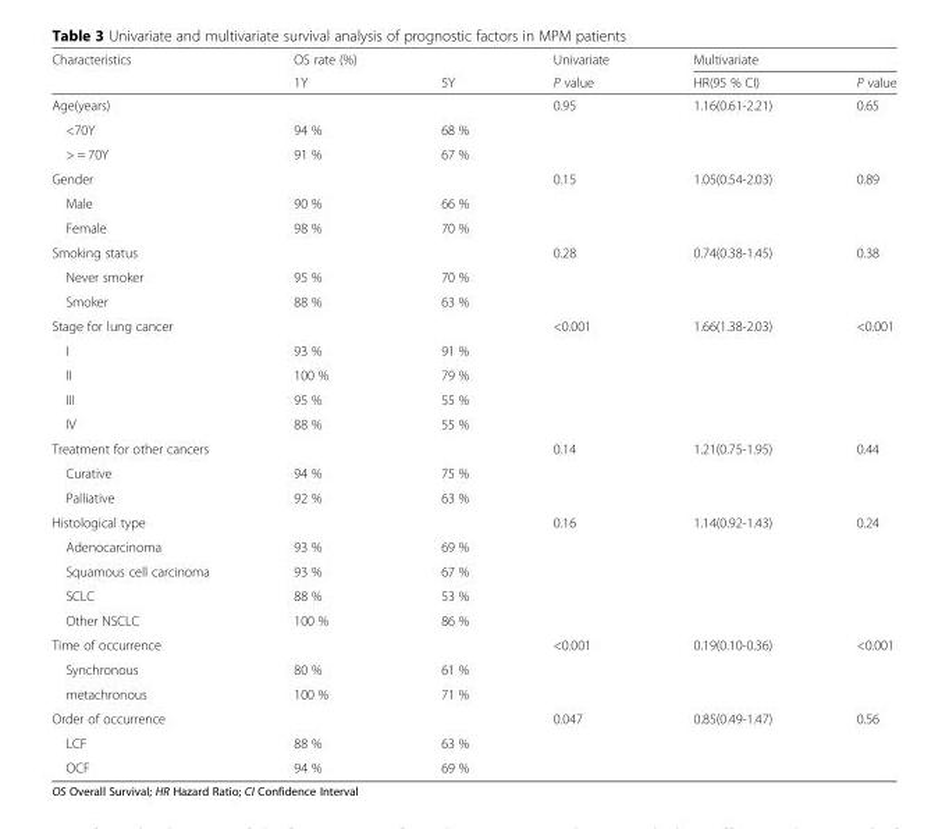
<table><thead><tr><td rowspan="2">Characteristics</td><td rowspan="2">OS rate (%) 1Y</td><td rowspan="2">5Y</td><td rowspan="2">Univariate P value</td><td colspan="2">Multivariate</td></tr><tr><td>HR(95 % CI)</td><td>P value</td></tr></thead><tbody><tr><td>Age(years)</td><td></td><td></td><td>0.95</td><td>1.16(0.61-2.21)</td><td>0.65</td></tr><tr><td>&lt;70Y</td><td>94 %</td><td>68 %</td><td></td><td></td><td></td></tr><tr><td>&gt; = 70Y</td><td>91 %</td><td>67 %</td><td></td><td></td><td></td></tr><tr><td>Gender</td><td></td><td></td><td>0.15</td><td>1.05(0.54-2.03)</td><td>0.89</td></tr><tr><td>Male</td><td>90 %</td><td>66 %</td><td></td><td></td><td></td></tr><tr><td>Female</td><td>98 %</td><td>70 %</td><td></td><td></td><td></td></tr><tr><td>Smoking status</td><td></td><td></td><td>0.28</td><td>0.74(0.38-1.45)</td><td>0.38</td></tr><tr><td>Never smoker</td><td>95 %</td><td>70 %</td><td></td><td></td><td></td></tr><tr><td>Smoker</td><td>88 %</td><td>63 %</td><td></td><td></td><td></td></tr><tr><td>Stage for lung cancer</td><td></td><td></td><td>&lt;0.001</td><td>1.66(1.38-2.03)</td><td>&lt;0.001</td></tr><tr><td>I</td><td>93 %</td><td>91 %</td><td></td><td></td><td></td></tr><tr><td>II</td><td>100 %</td><td>79 %</td><td></td><td></td><td></td></tr><tr><td>III</td><td>95 %</td><td>55 %</td><td></td><td></td><td></td></tr><tr><td>IV</td><td>88 %</td><td>55 %</td><td></td><td></td><td></td></tr><tr><td>Treatment for other cancers</td><td></td><td></td><td>0.14</td><td>1.21(0.75-1.95)</td><td>0.44</td></tr><tr><td>Curative</td><td>94 %</td><td>75 %</td><td></td><td></td><td></td></tr><tr><td>Palliative</td><td>92 %</td><td>63 %</td><td></td><td></td><td></td></tr><tr><td>Histological type</td><td></td><td></td><td>0.16</td><td>1.14(0.92-1.43)</td><td>0.24</td></tr><tr><td>Adenocarcinoma</td><td>93 %</td><td>69 %</td><td></td><td></td><td></td></tr><tr><td>Squamous cell carcinoma</td><td>93 %</td><td>67 %</td><td></td><td></td><td></td></tr><tr><td>SCLC</td><td>88 %</td><td>53 %</td><td></td><td></td><td></td></tr><tr><td>Other NSCLC</td><td>100 %</td><td>86 %</td><td></td><td></td><td></td></tr><tr><td>Time of occurrence</td><td></td><td></td><td>&lt;0.001</td><td>0.19(0.10-0.36)</td><td>&lt;0.001</td></tr><tr><td>Synchronous</td><td>80 %</td><td>61 %</td><td></td><td></td><td></td></tr><tr><td>metachronous</td><td>100 %</td><td>71 %</td><td></td><td></td><td></td></tr><tr><td>Order of occurrence</td><td></td><td></td><td>0.047</td><td>0.85(0.49-1.47)</td><td>0.56</td></tr><tr><td>LCF</td><td>88 %</td><td>63 %</td><td></td><td></td><td></td></tr><tr><td>OCF</td><td>94 %</td><td>69 %</td><td></td><td></td><td></td></tr></tbody></table>